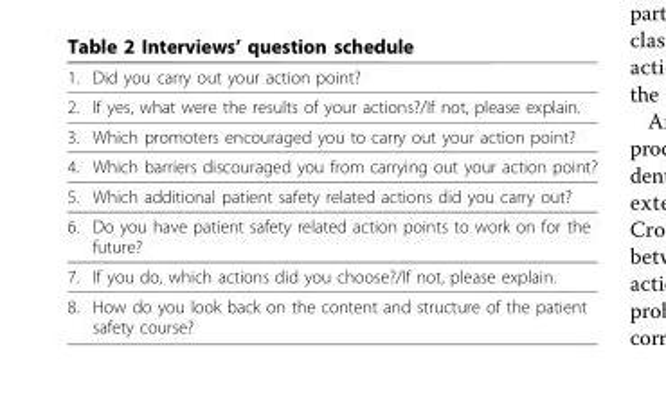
<table><tbody><tr><td>1.</td><td>Did you carry out your action point?</td></tr><tr><td>2.</td><td>If yes, what were the results of your actions?/If not, please explain.</td></tr><tr><td>3.</td><td>Which promoters encouraged you to carry out your action point?</td></tr><tr><td>4.</td><td>Which barriers discouraged you from carrying out your action point?</td></tr><tr><td>5.</td><td>Which additional patient safety related actions did you carry out?</td></tr><tr><td>6.</td><td>Do you have patient safety related action points to work on for the future?</td></tr><tr><td>7.</td><td>If you do, which actions did you choose?/If not, please explain.</td></tr><tr><td>8.</td><td>How do you look back on the content and structure of the patient safety course?</td></tr></tbody></table>